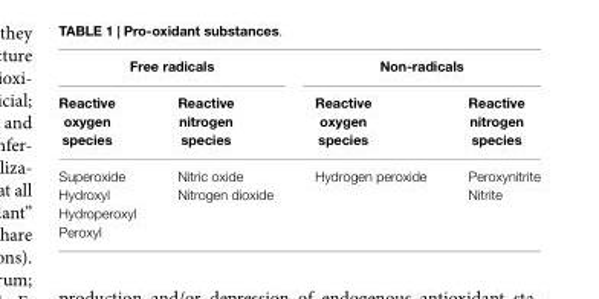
<table><thead><tr><td colspan="2">Free radicals</td><td colspan="2">Non-radicals</td></tr><tr><td>Reactive oxygen species</td><td>Reactive nitrogen species</td><td>Reactive oxygen species</td><td>Reactive nitrogen species</td></tr></thead><tbody><tr><td>Superoxide</td><td>Nitric oxide</td><td>Hydrogen peroxide</td><td>Peroxynitrite</td></tr><tr><td>Hydroxyl</td><td>Nitrogen dioxide</td><td></td><td>Nitrite</td></tr><tr><td colspan="4">Hydroperoxyl</td></tr><tr><td>Peroxyl</td><td></td><td></td><td></td></tr></tbody></table>